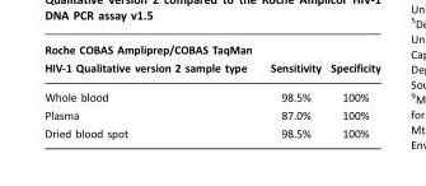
<table><thead><tr><td>Roche COBAS Ampliprep/COBAS TaqMan HIV-1 Qualitative version 2 sample type</td><td>Sensitivity</td><td>Specificity</td></tr></thead><tbody><tr><td>Whole blood</td><td>98.5%</td><td>100%</td></tr><tr><td>Plasma</td><td>87.0%</td><td>100%</td></tr><tr><td>Dried blood spot</td><td>98.5%</td><td>100%</td></tr></tbody></table>